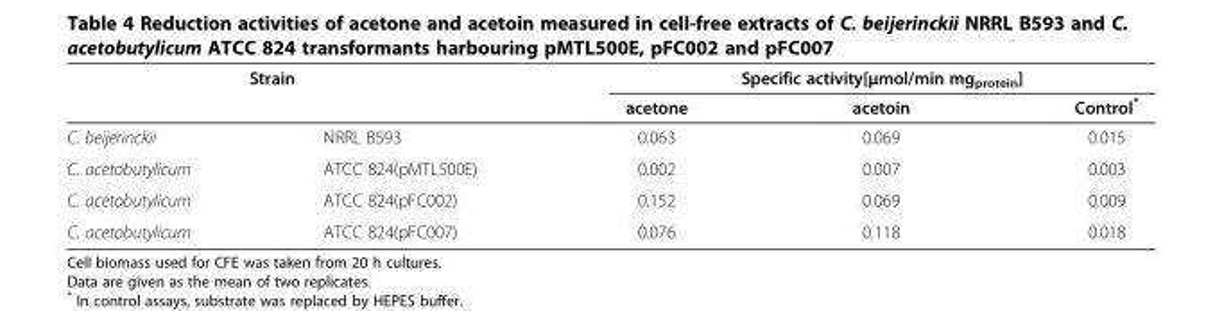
<table><thead><tr><td rowspan="2" colspan="2">Strain</td><td colspan="3">Specific activity[μmol/min mg<sub>protein</sub>]</td></tr><tr><td rowspan="2">acetone 0.063</td><td rowspan="2">acetoin 0.069</td><td rowspan="2">Control* 0.015</td></tr><tr><td>C. beijerinckii</td><td>NRRL B593</td></tr></thead><tbody><tr><td>C. acetobutylicum</td><td>ATCC 824(pMTL500E)</td><td>0.002</td><td>0.007</td><td>0.003</td></tr><tr><td>C. acetobutylicum</td><td>ATCC 824(pFC002)</td><td>0.152</td><td>0.069</td><td>0.009</td></tr><tr><td>C. acetobutylicum</td><td>ATCC 824(pFC007)</td><td>0.076</td><td>0.118</td><td>0.018</td></tr></tbody></table>